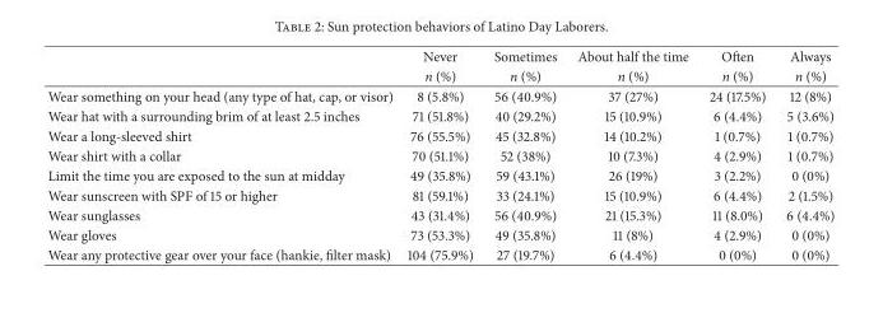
<table><thead><tr><td rowspan="2"></td><td rowspan="2">Never n (%)</td><td rowspan="2">Sometimes n (%)</td><td rowspan="2">About half the time n (%)</td><td rowspan="2">Often n (%)</td><td rowspan="2">Always n (%)</td></tr><tr></tr></thead><tbody><tr><td>Wear something on your head (any type of hat, cap, or visor)</td><td>8 (5.8%)</td><td>56 (40.9%)</td><td>37 (27%)</td><td>24 (17.5%)</td><td>12 (8%)</td></tr><tr><td>Wear hat with a surrounding brim of at least 2.5 inches</td><td>71 (51.8%)</td><td>40 (29.2%)</td><td>15 (10.9%)</td><td>6 (4.4%)</td><td>5 (3.6%)</td></tr><tr><td>Wear a long-sleeved shirt</td><td>76 (55.5%)</td><td>45 (32.8%)</td><td>14 (10.2%)</td><td>1 (0.7%)</td><td>1 (0.7%)</td></tr><tr><td>Wear shirt with a collar</td><td>70 (51.1%)</td><td>52 (38%)</td><td>10 (7.3%)</td><td>4 (2.9%)</td><td>1 (0.7%)</td></tr><tr><td>Limit the time you are exposed to the sun at midday</td><td>49 (35.8%)</td><td>59 (43.1%)</td><td>26 (19%)</td><td>3 (2.2%)</td><td>0 (0%)</td></tr><tr><td>Wear sunscreen with SPF of 15 or higher</td><td>81 (59.1%)</td><td>33 (24.1%)</td><td>15 (10.9%)</td><td>6 (4.4%)</td><td>2 (1.5%)</td></tr><tr><td>Wear sunglasses</td><td>43 (31.4%)</td><td>56 (40.9%)</td><td>21 (15.3%)</td><td>11 (8.0%)</td><td>6 (4.4%)</td></tr><tr><td>Wear gloves</td><td>73 (53.3%)</td><td>49 (35.8%)</td><td>11 (8%)</td><td>4 (2.9%)</td><td>0 (0%)</td></tr><tr><td>Wear any protective gear over your face (hankie, filter mask)</td><td>104 (75.9%)</td><td>27 (19.7%)</td><td>6 (4.4%)</td><td>0 (0%)</td><td>0 (0%)</td></tr></tbody></table>